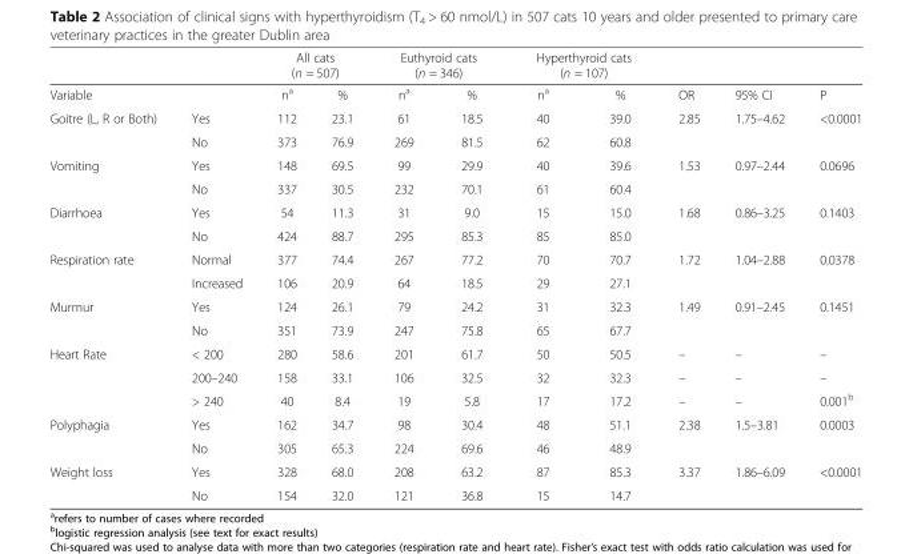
<table><thead><tr><td rowspan="2">Variable</td><td rowspan="2"></td><td colspan="2">All cats (n = 507)</td><td colspan="2">Euthyroid cats (n = 346)</td><td colspan="2">Hyperthyroid cats (n = 107)</td><td rowspan="2">OR</td><td rowspan="2">95% CI</td><td rowspan="2">P</td></tr><tr><td>n<sup>a</sup></td><td>%</td><td>n<sup>a</sup></td><td>%</td><td>n<sup>a</sup></td><td>%</td></tr></thead><tbody><tr><td rowspan="2">Goitre (L, R or Both)</td><td>Yes</td><td>112</td><td>23.1</td><td>61</td><td>18.5</td><td>40</td><td>39.0</td><td>2.85</td><td>1.75–4.62</td><td>&lt;0.0001</td></tr><tr><td>No</td><td>373</td><td>76.9</td><td>269</td><td>81.5</td><td>62</td><td>60.8</td><td></td><td></td><td></td></tr><tr><td rowspan="2">Vomiting</td><td>Yes</td><td>148</td><td>69.5</td><td>99</td><td>29.9</td><td>40</td><td>39.6</td><td>1.53</td><td>0.97–2.44</td><td>0.0696</td></tr><tr><td>No</td><td>337</td><td>30.5</td><td>232</td><td>70.1</td><td>61</td><td>60.4</td><td></td><td></td><td></td></tr><tr><td rowspan="2">Diarrhoea</td><td>Yes</td><td>54</td><td>11.3</td><td>31</td><td>9.0</td><td>15</td><td>15.0</td><td>1.68</td><td>0.86–3.25</td><td>0.1403</td></tr><tr><td>No</td><td>424</td><td>88.7</td><td>295</td><td>85.3</td><td>85</td><td>85.0</td><td></td><td></td><td></td></tr><tr><td rowspan="2">Respiration rate</td><td>Normal</td><td>377</td><td>74.4</td><td>267</td><td>77.2</td><td>70</td><td>70.7</td><td>1.72</td><td>1.04–2.88</td><td>0.0378</td></tr><tr><td>Increased</td><td>106</td><td>20.9</td><td>64</td><td>18.5</td><td>29</td><td>27.1</td><td></td><td></td><td></td></tr><tr><td rowspan="2">Murmur</td><td>Yes</td><td>124</td><td>26.1</td><td>79</td><td>24.2</td><td>31</td><td>32.3</td><td>1.49</td><td>0.91–2.45</td><td>0.1451</td></tr><tr><td>No</td><td>351</td><td>73.9</td><td>247</td><td>75.8</td><td>65</td><td>67.7</td><td></td><td></td><td></td></tr><tr><td rowspan="3">Heart Rate</td><td>&lt; 200</td><td>280</td><td>58.6</td><td>201</td><td>61.7</td><td>50</td><td>50.5</td><td>–</td><td>–</td><td>–</td></tr><tr><td>200–240</td><td>158</td><td>33.1</td><td>106</td><td>32.5</td><td>32</td><td>32.3</td><td>–</td><td>–</td><td>–</td></tr><tr><td>&gt; 240</td><td>40</td><td>8.4</td><td>19</td><td>5.8</td><td>17</td><td>17.2</td><td>–</td><td>–</td><td>0.001<sup>b</sup></td></tr><tr><td rowspan="2">Polyphagia</td><td>Yes</td><td>162</td><td>34.7</td><td>98</td><td>30.4</td><td>48</td><td>51.1</td><td>2.38</td><td>1.5–3.81</td><td>0.0003</td></tr><tr><td>No</td><td>305</td><td>65.3</td><td>224</td><td>69.6</td><td>46</td><td>48.9</td><td></td><td></td><td></td></tr><tr><td rowspan="2">Weight loss</td><td>Yes</td><td>328</td><td>68.0</td><td>208</td><td>63.2</td><td>87</td><td>85.3</td><td>3.37</td><td>1.86–6.09</td><td>&lt;0.0001</td></tr><tr><td>No</td><td>154</td><td>32.0</td><td>121</td><td>36.8</td><td>15</td><td>14.7</td><td></td><td></td><td></td></tr></tbody></table>